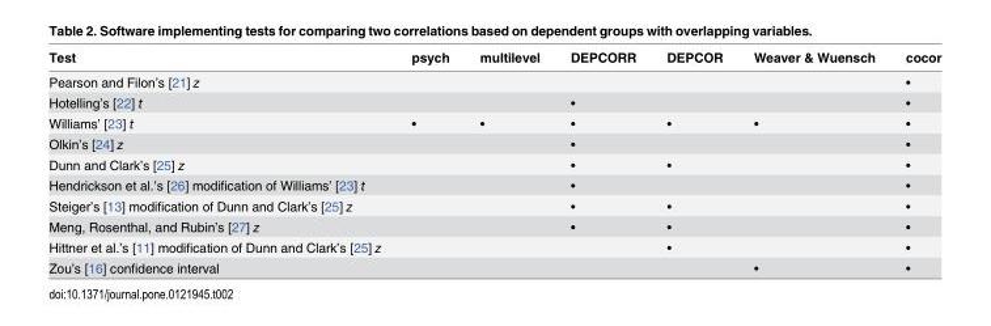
<table><thead><tr><td>Test</td><td>psych</td><td>multilevel</td><td>DEPCORR</td><td>DEPCOR</td><td>Weaver &amp; Wuensch</td><td>cocor</td></tr></thead><tbody><tr><td>Pearson and Filon’s [21] z</td><td></td><td></td><td></td><td></td><td></td><td>•</td></tr><tr><td>Hotelling’s [22] t</td><td></td><td></td><td>•</td><td></td><td></td><td>•</td></tr><tr><td>Williams’ [23] t</td><td>•</td><td>•</td><td>•</td><td>•</td><td>•</td><td>•</td></tr><tr><td>Olkin’s [24] z</td><td></td><td></td><td>•</td><td></td><td></td><td>•</td></tr><tr><td>Dunn and Clark’s [25] z</td><td></td><td></td><td>•</td><td>•</td><td></td><td>•</td></tr><tr><td>Hendrickson et al.’s [26] modification of Williams’ [23] t</td><td></td><td></td><td>•</td><td></td><td></td><td>•</td></tr><tr><td>Steiger’s [13] modification of Dunn and Clark’s [25] z</td><td></td><td></td><td>•</td><td>•</td><td></td><td>•</td></tr><tr><td>Meng, Rosenthal, and Rubin’s [27] z</td><td></td><td></td><td>•</td><td>•</td><td></td><td>•</td></tr><tr><td>Hittner et al.’s [11] modification of Dunn and Clark’s [25] z</td><td></td><td></td><td></td><td>•</td><td></td><td>•</td></tr><tr><td>Zou’s [16] confidence interval</td><td></td><td></td><td></td><td></td><td>•</td><td>•</td></tr></tbody></table>